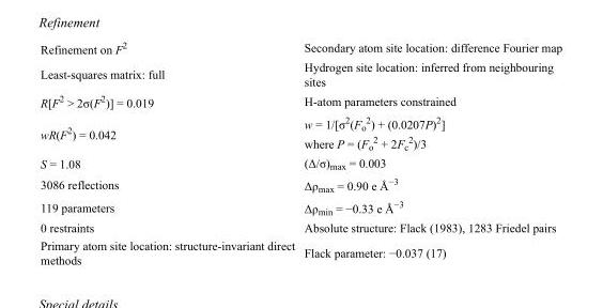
<table><tbody><tr><td>Refinement on F<sup>2</sup></td><td>Secondary atom site location: difference Fourier map</td></tr><tr><td>Least-squares matrix: full</td><td>Hydrogen site location: inferred from neighbouring sites</td></tr><tr><td>R[F<sup>2</sup> &gt; 2σ(F<sup>2</sup>)] = 0.019</td><td>H-atom parameters constrained</td></tr><tr><td>wR(F<sup>2</sup>) = 0.042</td><td>w = 1/[σ<sup>2</sup>(F<sub>o</sub> <sup>2</sup>) + (0.0207P)<sup>2</sup>] where P = (F<sub>o</sub> <sup>2</sup> + 2F<sub>c</sub> <sup>2</sup>)/3</td></tr><tr><td>S = 1.08</td><td>(Δ/σ)<sub>max</sub> = 0.003</td></tr><tr><td>3086 reflections</td><td>Δρ<sub>max</sub> = 0.90 e Å<sup>−3</sup></td></tr><tr><td>119 parameters</td><td>Δρ<sub>min</sub> = −0.33 e Å<sup>−3</sup></td></tr><tr><td>0 restraints</td><td>Absolute structure: Flack (1983), 1283 Friedel pairs</td></tr><tr><td>Primary atom site location: structure-invariant direct methods</td><td>Flack parameter: −0.037 (17)</td></tr></tbody></table>